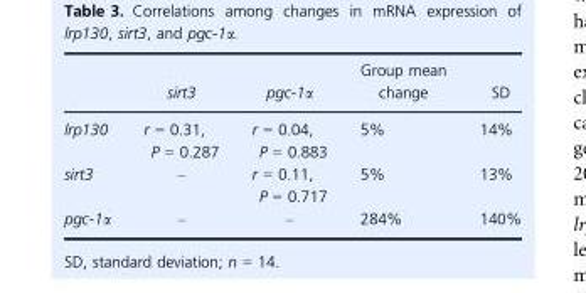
<table><thead><tr><td></td><td>sirt3</td><td>pgc-1α</td><td>Group mean change</td><td>SD</td></tr></thead><tbody><tr><td>lrp130</td><td>r = 0.31, P = 0.287</td><td>r = 0.04, P = 0.883</td><td>5%</td><td>14%</td></tr><tr><td>sirt3</td><td>–</td><td>r = 0.11, P = 0.717</td><td>5%</td><td>13%</td></tr><tr><td>pgc-1α</td><td>–</td><td>–</td><td>284%</td><td>140%</td></tr></tbody></table>